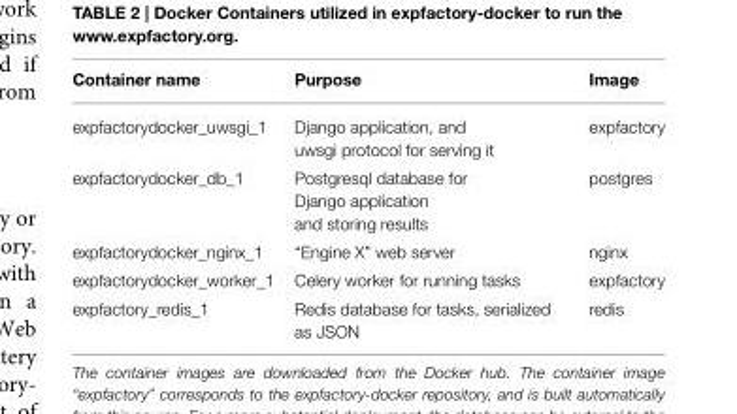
<table><thead><tr><td>Container name</td><td>Purpose</td><td>Image</td></tr></thead><tbody><tr><td>expfactorydocker_uwsgi_1</td><td>Django application, and uwsgi protocol for serving it</td><td>expfactory</td></tr><tr><td>expfactorydocker_db_1</td><td>Postgresql database for Django application and storing results</td><td>postgres</td></tr><tr><td>expfactorydocker_nginx_1</td><td>“Engine X” web server</td><td>nginx</td></tr><tr><td>expfactorydocker_worker_1</td><td>Celery worker for running tasks</td><td>expfactory</td></tr><tr><td>expfactory_redis_1</td><td>Redis database for tasks, serialized as JSON</td><td>redis</td></tr></tbody></table>